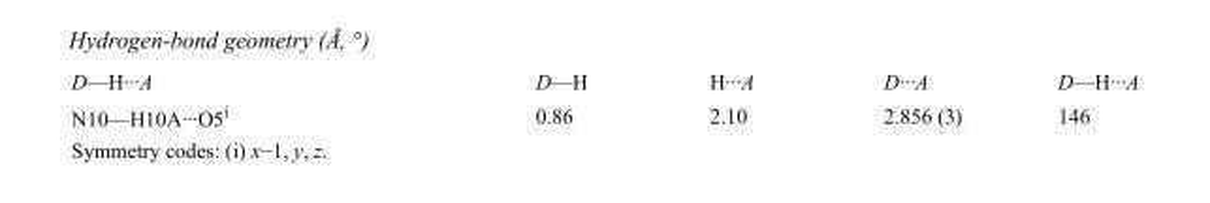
<table><tbody><tr><td>D—H···A</td><td>D—H</td><td>H···A</td><td>D···A</td><td>D—H···A</td></tr><tr><td>N10—H10A···O5<sup>i</sup></td><td>0.86</td><td>2.10</td><td>2.856 (3)</td><td>146</td></tr></tbody></table>